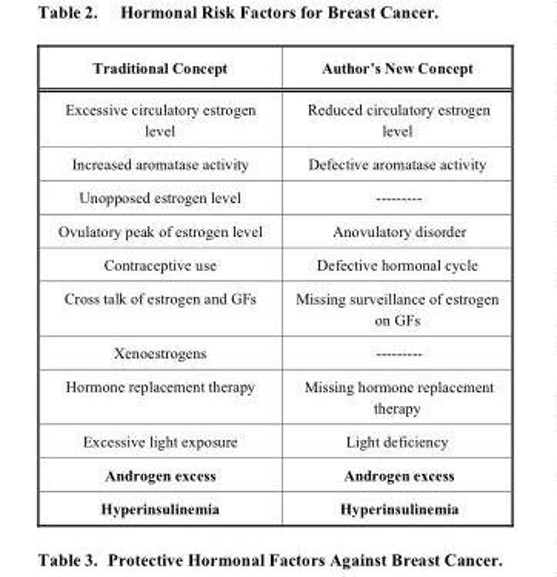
<table><thead><tr><td>Traditional Concept</td><td>Author’s New Concept</td></tr></thead><tbody><tr><td>Excessive circulatory estrogen level</td><td>Reduced circulatory estrogen level</td></tr><tr><td>Increased aromatase activity</td><td>Defective aromatase activity</td></tr><tr><td>Unopposed estrogen level</td><td>---------</td></tr><tr><td>Ovulatory peak of estrogen level</td><td>Anovulatory disorder</td></tr><tr><td>Contraceptive use</td><td>Defective hormonal cycle</td></tr><tr><td>Cross talk of estrogen and GFs</td><td>Missing surveillance of estrogen on GFs</td></tr><tr><td>Xenoestrogens</td><td>---------</td></tr><tr><td>Hormone replacement therapy</td><td>Missing hormone replacement therapy</td></tr><tr><td>Excessive light exposure</td><td>Light deficiency</td></tr><tr><td>Androgen excess</td><td>Androgen excess</td></tr><tr><td>Hyperinsulinemia</td><td>Hyperinsulinemia</td></tr></tbody></table>